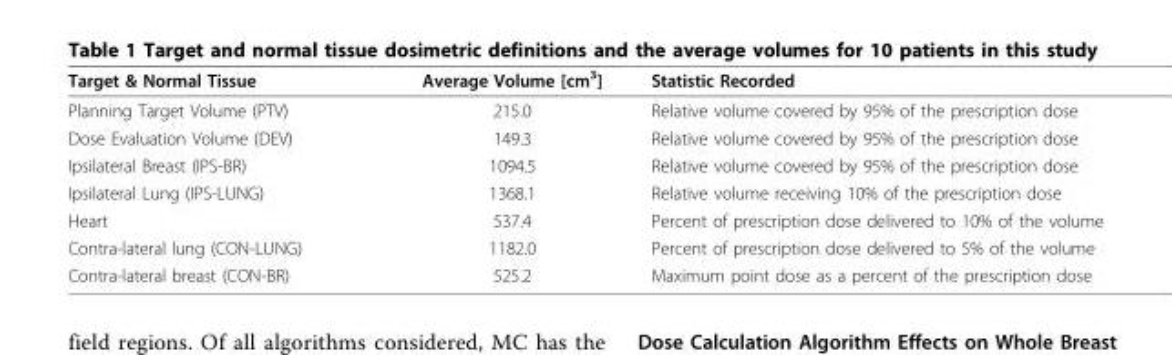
<table><thead><tr><td>Target &amp; Normal Tissue</td><td>Average Volume [cm<sup>3</sup>]</td><td>Statistic Recorded</td></tr></thead><tbody><tr><td>Planning Target Volume (PTV)</td><td>215.0</td><td>Relative volume covered by 95% of the prescription dose</td></tr><tr><td>Dose Evaluation Volume (DEV)</td><td>149.3</td><td>Relative volume covered by 95% of the prescription dose</td></tr><tr><td>Ipsilateral Breast (IPS-BR)</td><td>1094.5</td><td>Relative volume covered by 95% of the prescription dose</td></tr><tr><td>Ipsilateral Lung (IPS-LUNG)</td><td>1368.1</td><td>Relative volume receiving 10% of the prescription dose</td></tr><tr><td>Heart</td><td>537.4</td><td>Percent of prescription dose delivered to 10% of the volume</td></tr><tr><td>Contra-lateral lung (CON-LUNG)</td><td>1182.0</td><td>Percent of prescription dose delivered to 5% of the volume</td></tr><tr><td>Contra-lateral breast (CON-BR)</td><td>525.2</td><td>Maximum point dose as a percent of the prescription dose</td></tr></tbody></table>